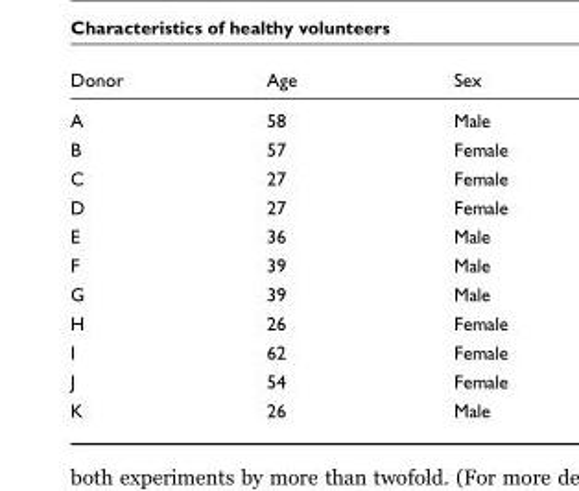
<table><thead><tr><td>Donor</td><td>Age</td><td>Sex</td></tr></thead><tbody><tr><td>A</td><td>58</td><td>Male</td></tr><tr><td>B</td><td>57</td><td>Female</td></tr><tr><td>C</td><td>27</td><td>Female</td></tr><tr><td>D</td><td>27</td><td>Female</td></tr><tr><td>E</td><td>36</td><td>Male</td></tr><tr><td>F</td><td>39</td><td>Male</td></tr><tr><td>G</td><td>39</td><td>Male</td></tr><tr><td>H</td><td>26</td><td>Female</td></tr><tr><td>I</td><td>62</td><td>Female</td></tr><tr><td>J</td><td>54</td><td>Female</td></tr><tr><td>K</td><td>26</td><td>Male</td></tr></tbody></table>